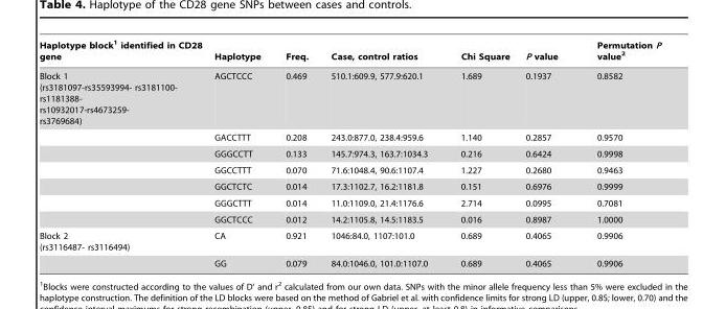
<table><thead><tr><td>Haplotype block<sup>1</sup> identified in CD28 gene</td><td>Haplotype</td><td>Freq.</td><td>Case, control ratios</td><td>Chi Square</td><td>P value</td><td>Permutation P value<sup>2</sup></td></tr></thead><tbody><tr><td rowspan="7">Block 1 (rs3181097-rs35593994- rs3181100- rs1181388- rs10932017-rs4673259- rs3769684)</td><td>AGCTCCC</td><td>0.469</td><td>510.1:609.9, 577.9:620.1</td><td>1.689</td><td>0.1937</td><td>0.8582</td></tr><tr><td>GACCTTT</td><td>0.208</td><td>243.0:877.0, 238.4:959.6</td><td>1.140</td><td>0.2857</td><td>0.9570</td></tr><tr><td>GGGCCTT</td><td>0.133</td><td>145.7:974.3, 163.7:1034.3</td><td>0.216</td><td>0.6424</td><td>0.9998</td></tr><tr><td>GGCCTTT</td><td>0.070</td><td>71.6:1048.4, 90.6:1107.4</td><td>1.227</td><td>0.2680</td><td>0.9463</td></tr><tr><td>GGCTCTC</td><td>0.014</td><td>17.3:1102.7, 16.2:1181.8</td><td>0.151</td><td>0.6976</td><td>0.9999</td></tr><tr><td>GGGCTTT</td><td>0.014</td><td>11.0:1109.0, 21.4:1176.6</td><td>2.714</td><td>0.0995</td><td>0.7081</td></tr><tr><td>GGCTCCC</td><td>0.012</td><td>14.2:1105.8, 14.5:1183.5</td><td>0.016</td><td>0.8987</td><td>1.0000</td></tr><tr><td rowspan="2">Block 2 (rs3116487- rs3116494)</td><td>CA</td><td>0.921</td><td>1046:84.0, 1107:101.0</td><td>0.689</td><td>0.4065</td><td>0.9906</td></tr><tr><td>GG</td><td>0.079</td><td>84.0:1046.0, 101.0:1107.0</td><td>0.689</td><td>0.4065</td><td>0.9906</td></tr></tbody></table>